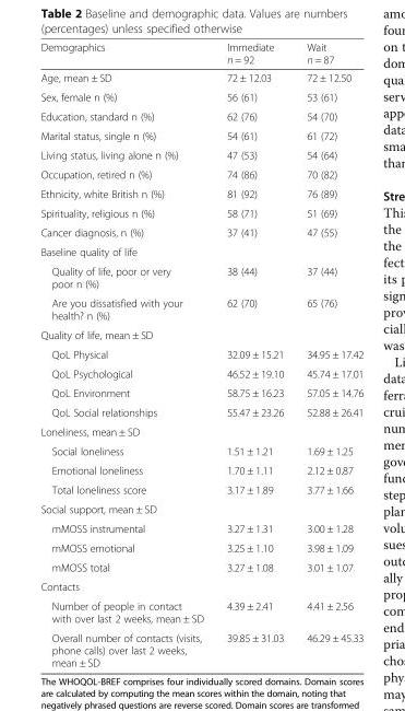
<table><thead><tr><td>Demographics</td><td>Immediate n = 92</td><td>Wait n = 87</td></tr></thead><tbody><tr><td>Age, mean ± SD</td><td>72 ± 12.03</td><td>72 ± 12.50</td></tr><tr><td>Sex, female n (%)</td><td>56 (61)</td><td>53 (61)</td></tr><tr><td>Education, standard n (%)</td><td>62 (76)</td><td>54 (70)</td></tr><tr><td>Marital status, single n (%)</td><td>54 (61)</td><td>61 (72)</td></tr><tr><td>Living status, living alone n (%)</td><td>47 (53)</td><td>54 (64)</td></tr><tr><td>Occupation, retired n (%)</td><td>74 (86)</td><td>70 (82)</td></tr><tr><td>Ethnicity, white British n (%)</td><td>81 (92)</td><td>76 (89)</td></tr><tr><td>Spirituality, religious n (%)</td><td>58 (71)</td><td>51 (69)</td></tr><tr><td>Cancer diagnosis, n (%)</td><td>37 (41)</td><td>47 (55)</td></tr><tr><td colspan="3">Baseline quality of life</td></tr><tr><td>Quality of life, poor or very poor n (%)</td><td>38 (44)</td><td>37 (44)</td></tr><tr><td>Are you dissatisfied with your health? n (%)</td><td>62 (70)</td><td>65 (76)</td></tr><tr><td colspan="3">Quality of life, mean ± SD</td></tr><tr><td>QoL Physical</td><td>32.09 ± 15.21</td><td>34.95 ± 17.42</td></tr><tr><td>QoL Psychological</td><td>46.52 ± 19.10</td><td>45.74 ± 17.01</td></tr><tr><td>QoL Environment</td><td>58.75 ± 16.23</td><td>57.05 ± 14.76</td></tr><tr><td>QoL Social relationships</td><td>55.47 ± 23.26</td><td>52.88 ± 26.41</td></tr><tr><td colspan="3">Loneliness, mean ± SD</td></tr><tr><td>Social loneliness</td><td>1.51 ± 1.21</td><td>1.69 ± 1.25</td></tr><tr><td>Emotional loneliness</td><td>1.70 ± 1.11</td><td>2.12 ± 0.87</td></tr><tr><td>Total loneliness score</td><td>3.17 ± 1.89</td><td>3.77 ± 1.66</td></tr><tr><td colspan="3">Social support, mean ± SD</td></tr><tr><td>mMOSS instrumental</td><td>3.27 ± 1.31</td><td>3.00 ± 1.28</td></tr><tr><td>mMOSS emotional</td><td>3.25 ± 1.10</td><td>3.98 ± 1.09</td></tr><tr><td>mMOSS total</td><td>3.27 ± 1.08</td><td>3.01 ± 1.07</td></tr><tr><td colspan="3">Contacts</td></tr><tr><td>Number of people in contact with over last 2 weeks, mean ± SD</td><td>4.39 ± 2.41</td><td>4.41 ± 2.56</td></tr><tr><td>Overall number of contacts (visits, phone calls) over last 2 weeks, mean ± SD</td><td>39.85 ± 31.03</td><td>46.29 ± 45.33</td></tr></tbody></table>